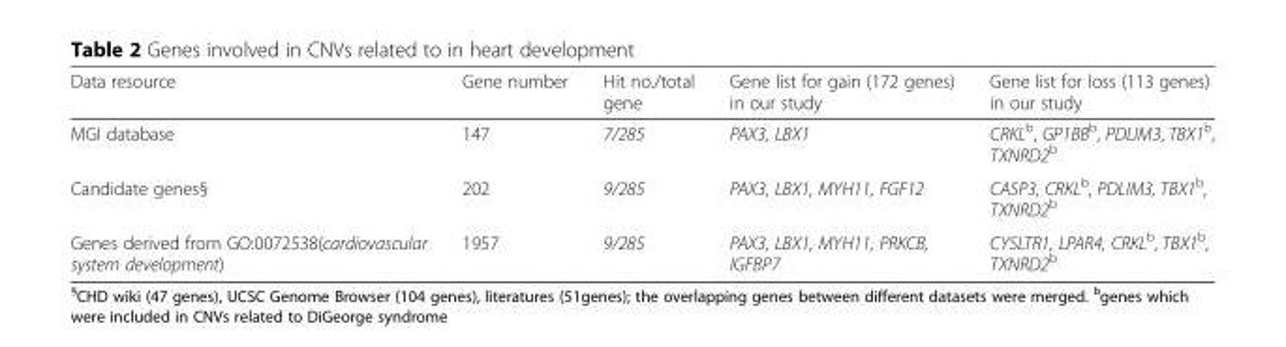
<table><thead><tr><td>Data resource</td><td>Gene number</td><td>Hit no./total gene</td><td>Gene list for gain (172 genes) in our study</td><td>Gene list for loss (113 genes) in our study</td></tr></thead><tbody><tr><td>MGI database</td><td>147</td><td>7/285</td><td>PAX3, LBX1</td><td>CRKL<sup>b</sup>, GP1BB<sup>b</sup>, PDLIM3, TBX1<sup>b</sup>, TXNRD2<sup>b</sup></td></tr><tr><td>Candidate genes§</td><td>202</td><td>9/285</td><td>PAX3, LBX1, MYH11, FGF12</td><td>CASP3, CRKL<sup>b</sup>, PDLIM3, TBX1<sup>b</sup>, TXNRD2<sup>b</sup></td></tr><tr><td>Genes derived from GO:0072538(cardiovascular system development)</td><td>1957</td><td>9/285</td><td>PAX3, LBX1, MYH11, PRKCB, IGFBP7</td><td>CYSLTR1, LPAR4, CRKL<sup>b</sup>, TBX1<sup>b</sup>, TXNRD2<sup>b</sup></td></tr></tbody></table>